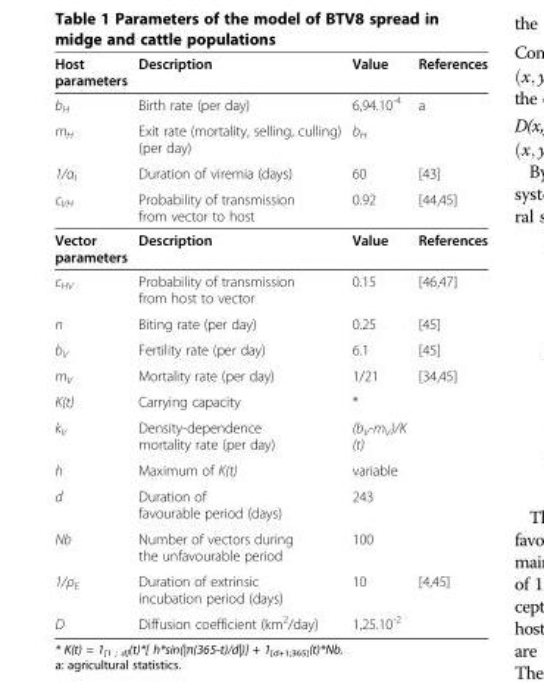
<table><thead><tr><td>Host parameters</td><td>Description</td><td>Value</td><td>References</td></tr></thead><tbody><tr><td>b<sub>H</sub></td><td>Birth rate (per day)</td><td>6,94.10<sup>-4</sup></td><td>a</td></tr><tr><td>m<sub>H</sub></td><td>Exit rate (mortality, selling, culling) (per day)</td><td>b<sub>H</sub></td><td></td></tr><tr><td>1/α<sub>I</sub></td><td>Duration of viremia (days)</td><td>60</td><td>[43]</td></tr><tr><td>c<sub>VH</sub></td><td>Probability of transmission from vector to host</td><td>0.92</td><td>[44,45]</td></tr><tr><td>Vector parameters</td><td>Description</td><td>Value</td><td>References</td></tr><tr><td>c<sub>HV</sub></td><td>Probability of transmission from host to vector</td><td>0.15</td><td>[46,47]</td></tr><tr><td>n</td><td>Biting rate (per day)</td><td>0.25</td><td>[45]</td></tr><tr><td>b<sub>V</sub></td><td>Fertility rate (per day)</td><td>6.1</td><td>[45]</td></tr><tr><td>m<sub>V</sub></td><td>Mortality rate (per day)</td><td>1/21</td><td>[34,45]</td></tr><tr><td>K(t)</td><td>Carrying capacity</td><td>*</td><td></td></tr><tr><td>k<sub>V</sub></td><td>Density-dependence mortality rate (per day)</td><td>(b<sub>V</sub>-m<sub>V</sub>)/K (t)</td><td></td></tr><tr><td>h</td><td>Maximum of K(t)</td><td>variable</td><td></td></tr><tr><td>d</td><td>Duration of favourable period (days)</td><td>243</td><td></td></tr><tr><td>Nb</td><td>Number of vectors during the unfavourable period</td><td>100</td><td></td></tr><tr><td>1/ρ<sub>E</sub></td><td>Duration of extrinsic incubation period (days)</td><td>10</td><td>[4,45]</td></tr><tr><td>D</td><td>Diffusion coefficient (km<sup>2</sup>/day)</td><td>1,25.10<sup>-2</sup></td><td></td></tr></tbody></table>